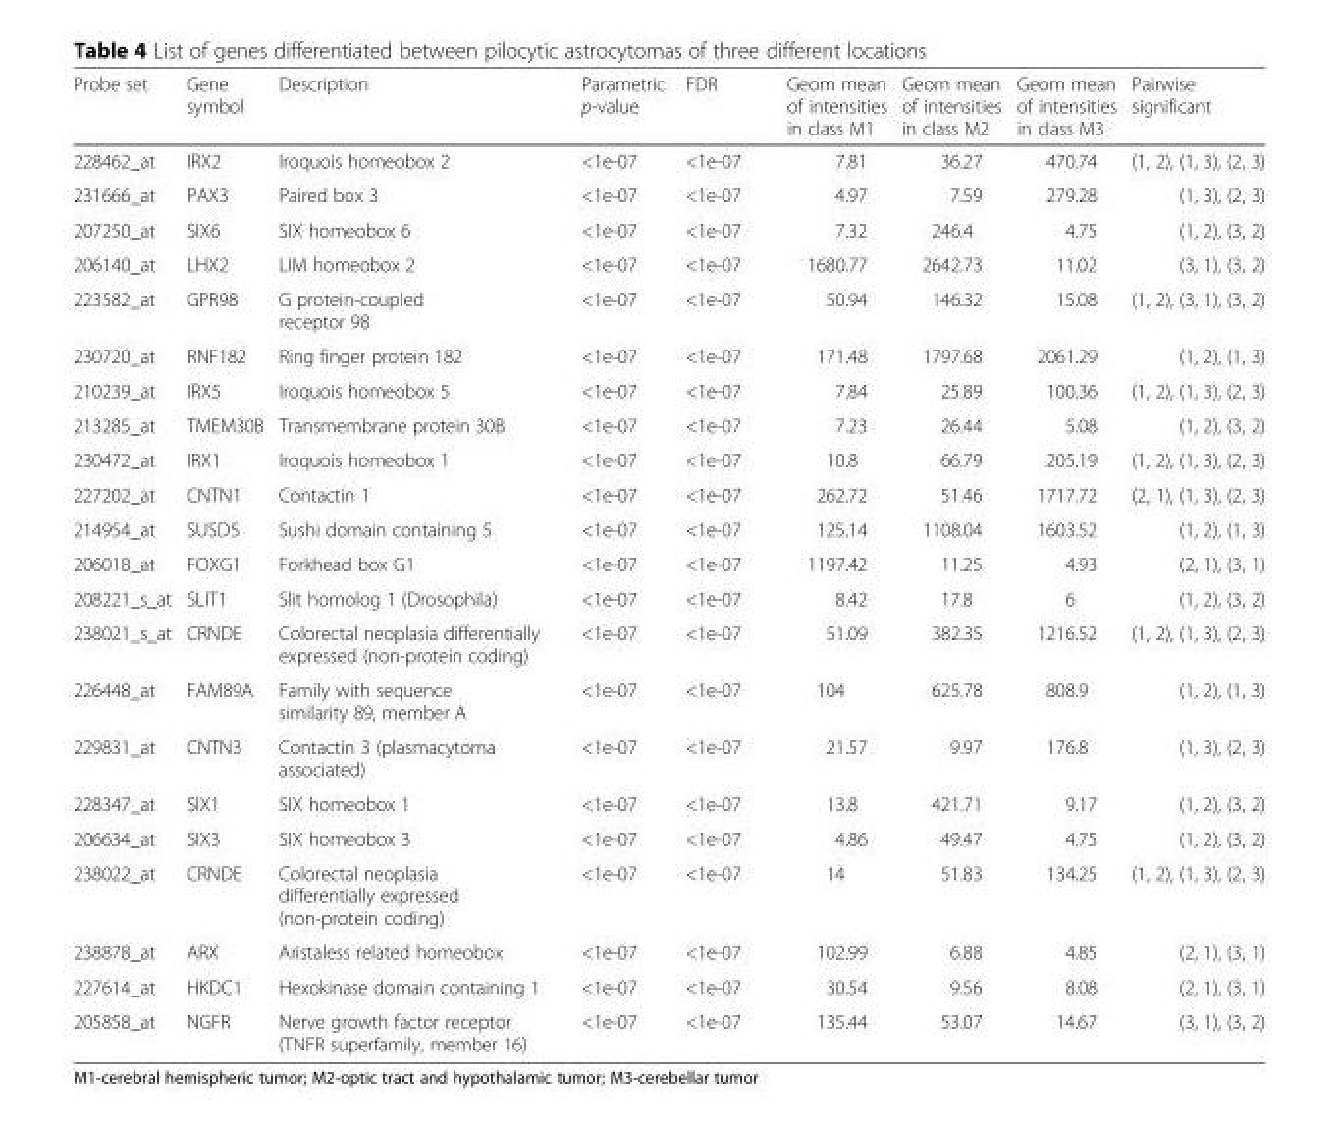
<table><thead><tr><td>Probe set</td><td>Gene symbol</td><td>Description</td><td>Parametric p-value</td><td>FDR</td><td>Geom mean of intensities in class M1</td><td>Geom mean of intensities in class M2</td><td>Geom mean of intensities in class M3</td><td>Pairwise significant</td></tr></thead><tbody><tr><td>228462_at</td><td>IRX2</td><td>Iroquois homeobox 2</td><td>&lt;1e-07</td><td>&lt;1e-07</td><td>7.81</td><td>36.27</td><td>470.74</td><td>(1, 2), (1, 3), (2, 3)</td></tr><tr><td>231666_at</td><td>PAX3</td><td>Paired box 3</td><td>&lt;1e-07</td><td>&lt;1e-07</td><td>4.97</td><td>7.59</td><td>279.28</td><td>(1, 3), (2, 3)</td></tr><tr><td>207250_at</td><td>SIX6</td><td>SIX homeobox 6</td><td>&lt;1e-07</td><td>&lt;1e-07</td><td>7.32</td><td>246.4</td><td>4.75</td><td>(1, 2), (3, 2)</td></tr><tr><td>206140_at</td><td>LHX2</td><td>LIM homeobox 2</td><td>&lt;1e-07</td><td>&lt;1e-07</td><td>1680.77</td><td>2642.73</td><td>11.02</td><td>(3, 1), (3, 2)</td></tr><tr><td>223582_at</td><td>GPR98</td><td>G protein-coupled receptor 98</td><td>&lt;1e-07</td><td>&lt;1e-07</td><td>50.94</td><td>146.32</td><td>15.08</td><td>(1, 2), (3, 1), (3, 2)</td></tr><tr><td>230720_at</td><td>RNF182</td><td>Ring finger protein 182</td><td>&lt;1e-07</td><td>&lt;1e-07</td><td>171.48</td><td>1797.68</td><td>2061.29</td><td>(1, 2), (1, 3)</td></tr><tr><td>210239_at</td><td>IRX5</td><td>Iroquois homeobox 5</td><td>&lt;1e-07</td><td>&lt;1e-07</td><td>7.84</td><td>25.89</td><td>100.36</td><td>(1, 2), (1, 3), (2, 3)</td></tr><tr><td>213285_at</td><td>TMEM30B</td><td>Transmembrane protein 30B</td><td>&lt;1e-07</td><td>&lt;1e-07</td><td>7.23</td><td>26.44</td><td>5.08</td><td>(1, 2), (3, 2)</td></tr><tr><td>230472_at</td><td>IRX1</td><td>Iroquois homeobox 1</td><td>&lt;1e-07</td><td>&lt;1e-07</td><td>10.8</td><td>66.79</td><td>205.19</td><td>(1, 2), (1, 3), (2, 3)</td></tr><tr><td>227202_at</td><td>CNTN1</td><td>Contactin 1</td><td>&lt;1e-07</td><td>&lt;1e-07</td><td>262.72</td><td>51.46</td><td>1717.72</td><td>(2, 1), (1, 3), (2, 3)</td></tr><tr><td>214954_at</td><td>SUSD5</td><td>Sushi domain containing 5</td><td>&lt;1e-07</td><td>&lt;1e-07</td><td>125.14</td><td>1108.04</td><td>1603.52</td><td>(1, 2), (1, 3)</td></tr><tr><td>206018_at</td><td>FOXG1</td><td>Forkhead box G1</td><td>&lt;1e-07</td><td>&lt;1e-07</td><td>1197.42</td><td>11.25</td><td>4.93</td><td>(2, 1), (3, 1)</td></tr><tr><td>208221_s_at</td><td>SLIT1</td><td>Slit homolog 1 (Drosophila)</td><td>&lt;1e-07</td><td>&lt;1e-07</td><td>8.42</td><td>17.8</td><td>6</td><td>(1, 2), (3, 2)</td></tr><tr><td>238021_s_at</td><td>CRNDE</td><td>Colorectal neoplasia differentially expressed (non-protein coding)</td><td>&lt;1e-07</td><td>&lt;1e-07</td><td>51.09</td><td>382.35</td><td>1216.52</td><td>(1, 2), (1, 3), (2, 3)</td></tr><tr><td>226448_at</td><td>FAM89A</td><td>Family with sequence similarity 89, member A</td><td>&lt;1e-07</td><td>&lt;1e-07</td><td>104</td><td>625.78</td><td>808.9</td><td>(1, 2), (1, 3)</td></tr><tr><td>229831_at</td><td>CNTN3</td><td>Contactin 3 (plasmacytoma associated)</td><td>&lt;1e-07</td><td>&lt;1e-07</td><td>21.57</td><td>9.97</td><td>176.8</td><td>(1, 3), (2, 3)</td></tr><tr><td>228347_at</td><td>SIX1</td><td>SIX homeobox 1</td><td>&lt;1e-07</td><td>&lt;1e-07</td><td>13.8</td><td>421.71</td><td>9.17</td><td>(1, 2), (3, 2)</td></tr><tr><td>206634_at</td><td>SIX3</td><td>SIX homeobox 3</td><td>&lt;1e-07</td><td>&lt;1e-07</td><td>4.86</td><td>49.47</td><td>4.75</td><td>(1, 2), (3, 2)</td></tr><tr><td>238022_at</td><td>CRNDE</td><td>Colorectal neoplasia differentially expressed (non-protein coding)</td><td>&lt;1e-07</td><td>&lt;1e-07</td><td>14</td><td>51.83</td><td>134.25</td><td>(1, 2), (1, 3), (2, 3)</td></tr><tr><td>238878_at</td><td>ARX</td><td>Aristaless related homeobox</td><td>&lt;1e-07</td><td>&lt;1e-07</td><td>102.99</td><td>6.88</td><td>4.85</td><td>(2, 1), (3, 1)</td></tr><tr><td>227614_at</td><td>HKDC1</td><td>Hexokinase domain containing 1</td><td>&lt;1e-07</td><td>&lt;1e-07</td><td>30.54</td><td>9.56</td><td>8.08</td><td>(2, 1), (3, 1)</td></tr><tr><td>205858_at</td><td>NGFR</td><td>Nerve growth factor receptor (TNFR superfamily, member 16)</td><td>&lt;1e-07</td><td>&lt;1e-07</td><td>135.44</td><td>53.07</td><td>14.67</td><td>(3, 1), (3, 2)</td></tr></tbody></table>